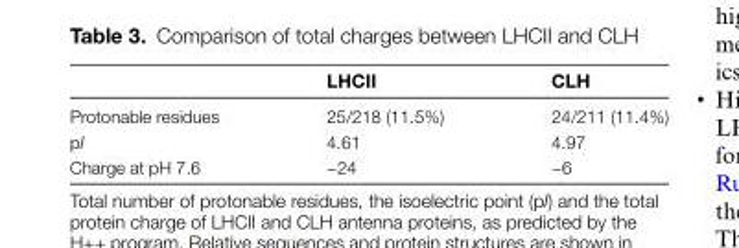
<table><thead><tr><td></td><td>LHCII</td><td>CLH</td></tr></thead><tbody><tr><td>Protonable residues</td><td>25/218 (11.5%)</td><td>24/211 (11.4%)</td></tr><tr><td>pI</td><td>4.61</td><td>4.97</td></tr><tr><td>Charge at pH 7.6</td><td>−24</td><td>−6</td></tr></tbody></table>